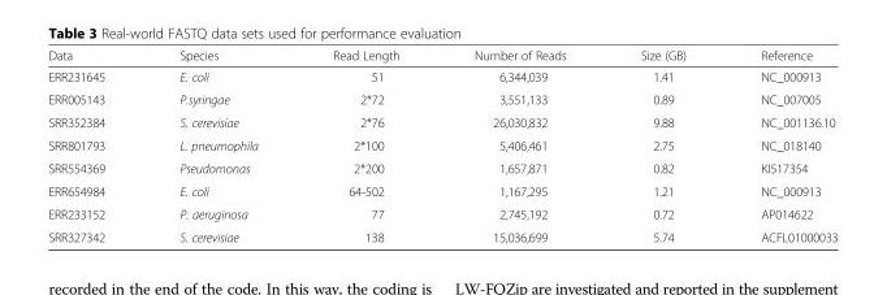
<table><thead><tr><td>Data</td><td>Species</td><td>Read Length</td><td>Number of Reads</td><td>Size (GB)</td><td>Reference</td></tr></thead><tbody><tr><td>ERR231645</td><td>E. coli</td><td>51</td><td>6,344,039</td><td>1.41</td><td>NC_000913</td></tr><tr><td>ERR005143</td><td>P.syringae</td><td>2*72</td><td>3,551,133</td><td>0.89</td><td>NC_007005</td></tr><tr><td>SRR352384</td><td>S. cerevisiae</td><td>2*76</td><td>26,030,832</td><td>9.88</td><td>NC_001136.10</td></tr><tr><td>SRR801793</td><td>L. pneumophila</td><td>2*100</td><td>5,406,461</td><td>2.75</td><td>NC_018140</td></tr><tr><td>SRR554369</td><td>Pseudomonas</td><td>2*200</td><td>1,657,871</td><td>0.82</td><td>KI517354</td></tr><tr><td>ERR654984</td><td>E. coli</td><td>64-502</td><td>1,167,295</td><td>1.21</td><td>NC_000913</td></tr><tr><td>ERR233152</td><td>P. aeruginosa</td><td>77</td><td>2,745,192</td><td>0.72</td><td>AP014622</td></tr><tr><td>SRR327342</td><td>S. cerevisiae</td><td>138</td><td>15,036,699</td><td>5.74</td><td>ACFL01000033</td></tr></tbody></table>